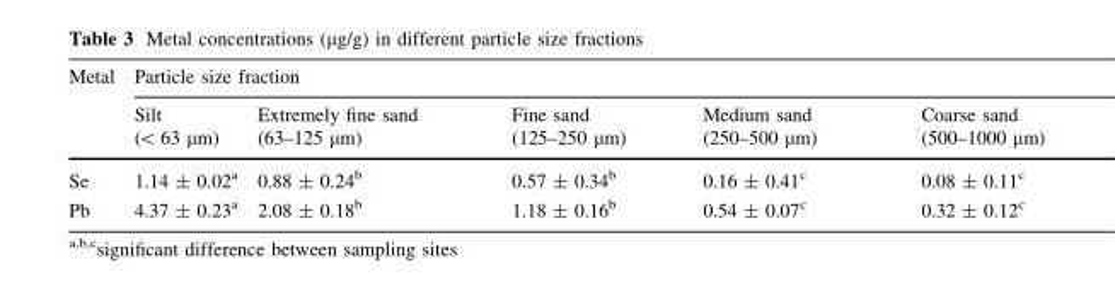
<table><thead><tr><td rowspan="2">Metal</td><td colspan="5">Particle size fraction</td></tr><tr><td>Silt (&lt; 63 μm)</td><td>Extremely fine sand (63–125 μm)</td><td>Fine sand (125–250 μm)</td><td>Medium sand (250–500 μm)</td><td>Coarse sand (500–1000 μm)</td></tr></thead><tbody><tr><td>Se</td><td>1.14 ± 0.02<sup>a</sup></td><td>0.88 ± 0.24<sup>b</sup></td><td>0.57 ± 0.34<sup>b</sup></td><td>0.16 ± 0.41<sup>c</sup></td><td>0.08 ± 0.11<sup>c</sup></td></tr><tr><td>Pb</td><td>4.37 ± 0.23<sup>a</sup></td><td>2.08 ± 0.18<sup>b</sup></td><td>1.18 ± 0.16<sup>b</sup></td><td>0.54 ± 0.07<sup>c</sup></td><td>0.32 ± 0.12<sup>c</sup></td></tr></tbody></table>